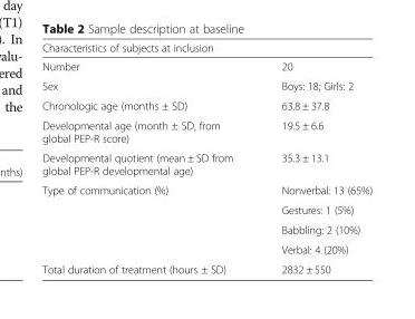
<table><thead><tr><td colspan="2">Characteristics of subjects at inclusion</td></tr><tr><td>Number</td><td>20</td></tr></thead><tbody><tr><td>Sex</td><td>Boys: 18; Girls: 2</td></tr><tr><td>Chronologic age (months ± SD)</td><td>63.8 ± 37.8</td></tr><tr><td>Developmental age (month ± SD, from global PEP-R score)</td><td>19.5 ± 6.6</td></tr><tr><td>Developmental quotient (mean ± SD from global PEP-R developmental age)</td><td>35.3 ± 13.1</td></tr><tr><td rowspan="4">Type of communication (%)</td><td>Nonverbal: 13 (65%)</td></tr><tr><td>Gestures: 1 (5%)</td></tr><tr><td>Babbling: 2 (10%)</td></tr><tr><td>Verbal: 4 (20%)</td></tr><tr><td>Total duration of treatment (hours ± SD)</td><td>2832 ± 550</td></tr></tbody></table>